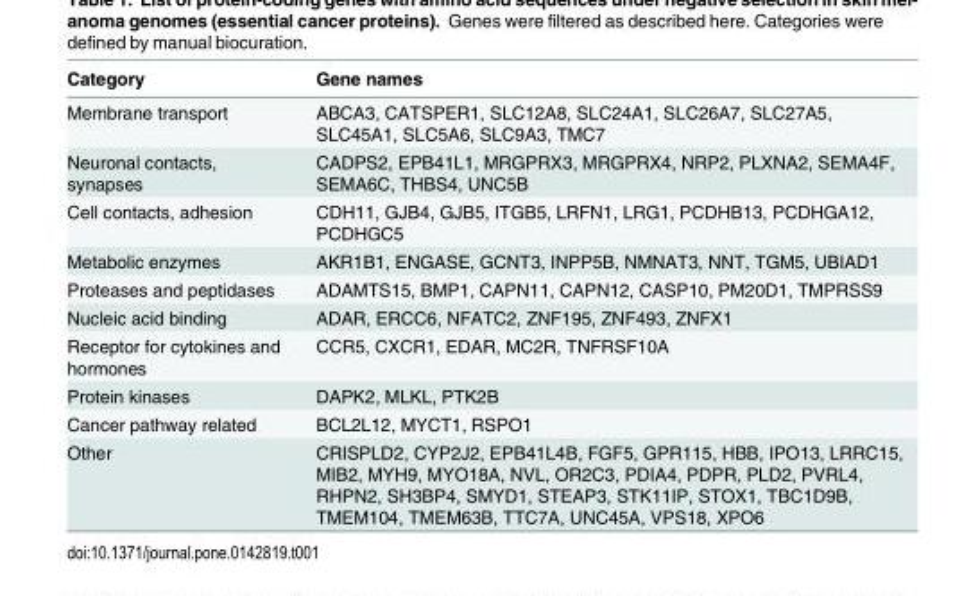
<table><thead><tr><td>Category</td><td>Gene names</td></tr></thead><tbody><tr><td>Membrane transport</td><td>ABCA3, CATSPER1, SLC12A8, SLC24A1, SLC26A7, SLC27A5, SLC45A1, SLC5A6, SLC9A3, TMC7</td></tr><tr><td>Neuronal contacts, synapses</td><td>CADPS2, EPB41L1, MRGPRX3, MRGPRX4, NRP2, PLXNA2, SEMA4F, SEMA6C, THBS4, UNC5B</td></tr><tr><td>Cell contacts, adhesion</td><td>CDH11, GJB4, GJB5, ITGB5, LRFN1, LRG1, PCDHB13, PCDHGA12, PCDHGC5</td></tr><tr><td>Metabolic enzymes</td><td>AKR1B1, ENGASE, GCNT3, INPP5B, NMNAT3, NNT, TGM5, UBIAD1</td></tr><tr><td>Proteases and peptidases</td><td>ADAMTS15, BMP1, CAPN11, CAPN12, CASP10, PM20D1, TMPRSS9</td></tr><tr><td>Nucleic acid binding</td><td>ADAR, ERCC6, NFATC2, ZNF195, ZNF493, ZNFX1</td></tr><tr><td>Receptor for cytokines and hormones</td><td>CCR5, CXCR1, EDAR, MC2R, TNFRSF10A</td></tr><tr><td>Protein kinases</td><td>DAPK2, MLKL, PTK2B</td></tr><tr><td>Cancer pathway related</td><td>BCL2L12, MYCT1, RSPO1</td></tr><tr><td>Other</td><td>CRISPLD2, CYP2J2, EPB41L4B, FGF5, GPR115, HBB, IPO13, LRRC15, MIB2, MYH9, MYO18A, NVL, OR2C3, PDIA4, PDPR, PLD2, PVRL4, RHPN2, SH3BP4, SMYD1, STEAP3, STK11IP, STOX1, TBC1D9B, TMEM104, TMEM63B, TTC7A, UNC45A, VPS18, XPO6</td></tr></tbody></table>